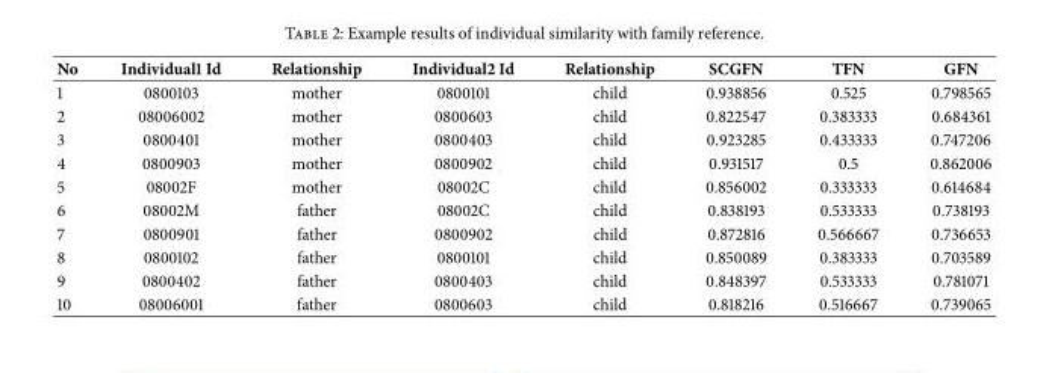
<table><thead><tr><td>No</td><td>Individual1 Id</td><td>Relationship</td><td>Individual2 Id</td><td>Relationship</td><td>SCGFN</td><td>TFN</td><td>GFN</td></tr></thead><tbody><tr><td>1</td><td>0800103</td><td>mother</td><td>0800101</td><td>child</td><td>0.938856</td><td>0.525</td><td>0.798565</td></tr><tr><td>2</td><td>08006002</td><td>mother</td><td>0800603</td><td>child</td><td>0.822547</td><td>0.383333</td><td>0.684361</td></tr><tr><td>3</td><td>0800401</td><td>mother</td><td>0800403</td><td>child</td><td>0.923285</td><td>0.433333</td><td>0.747206</td></tr><tr><td>4</td><td>0800903</td><td>mother</td><td>0800902</td><td>child</td><td>0.931517</td><td>0.5</td><td>0.862006</td></tr><tr><td>5</td><td>08002F</td><td>mother</td><td>08002C</td><td>child</td><td>0.856002</td><td>0.333333</td><td>0.614684</td></tr><tr><td>6</td><td>08002M</td><td>father</td><td>08002C</td><td>child</td><td>0.838193</td><td>0.533333</td><td>0.738193</td></tr><tr><td>7</td><td>0800901</td><td>father</td><td>0800902</td><td>child</td><td>0.872816</td><td>0.566667</td><td>0.736653</td></tr><tr><td>8</td><td>0800102</td><td>father</td><td>0800101</td><td>child</td><td>0.850089</td><td>0.383333</td><td>0.703589</td></tr><tr><td>9</td><td>0800402</td><td>father</td><td>0800403</td><td>child</td><td>0.848397</td><td>0.533333</td><td>0.781071</td></tr><tr><td>10</td><td>08006001</td><td>father</td><td>0800603</td><td>child</td><td>0.818216</td><td>0.516667</td><td>0.739065</td></tr></tbody></table>